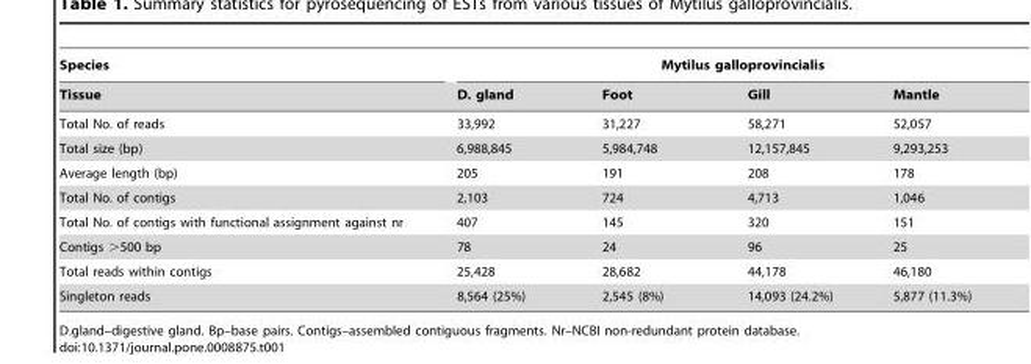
<table><thead><tr><td rowspan="2">Species Tissue</td><td colspan="4">Mytilus galloprovincialis</td></tr><tr><td>D. gland</td><td>Foot</td><td>Gill</td><td>Mantle</td></tr></thead><tbody><tr><td>Total No. of reads</td><td>33,992</td><td>31,227</td><td>58,271</td><td>52,057</td></tr><tr><td>Total size (bp)</td><td>6,988,845</td><td>5,984,748</td><td>12,157,845</td><td>9,293,253</td></tr><tr><td>Average length (bp)</td><td>205</td><td>191</td><td>208</td><td>178</td></tr><tr><td>Total No. of contigs</td><td>2,103</td><td>724</td><td>4,713</td><td>1,046</td></tr><tr><td>Total No. of contigs with functional assignment against nr</td><td>407</td><td>145</td><td>320</td><td>151</td></tr><tr><td>Contigs &gt;500 bp</td><td>78</td><td>24</td><td>96</td><td>25</td></tr><tr><td>Total reads within contigs</td><td>25,428</td><td>28,682</td><td>44,178</td><td>46,180</td></tr><tr><td>Singleton reads</td><td>8,564 (25%)</td><td>2,545 (8%)</td><td>14,093 (24.2%)</td><td>5,877 (11.3%)</td></tr></tbody></table>